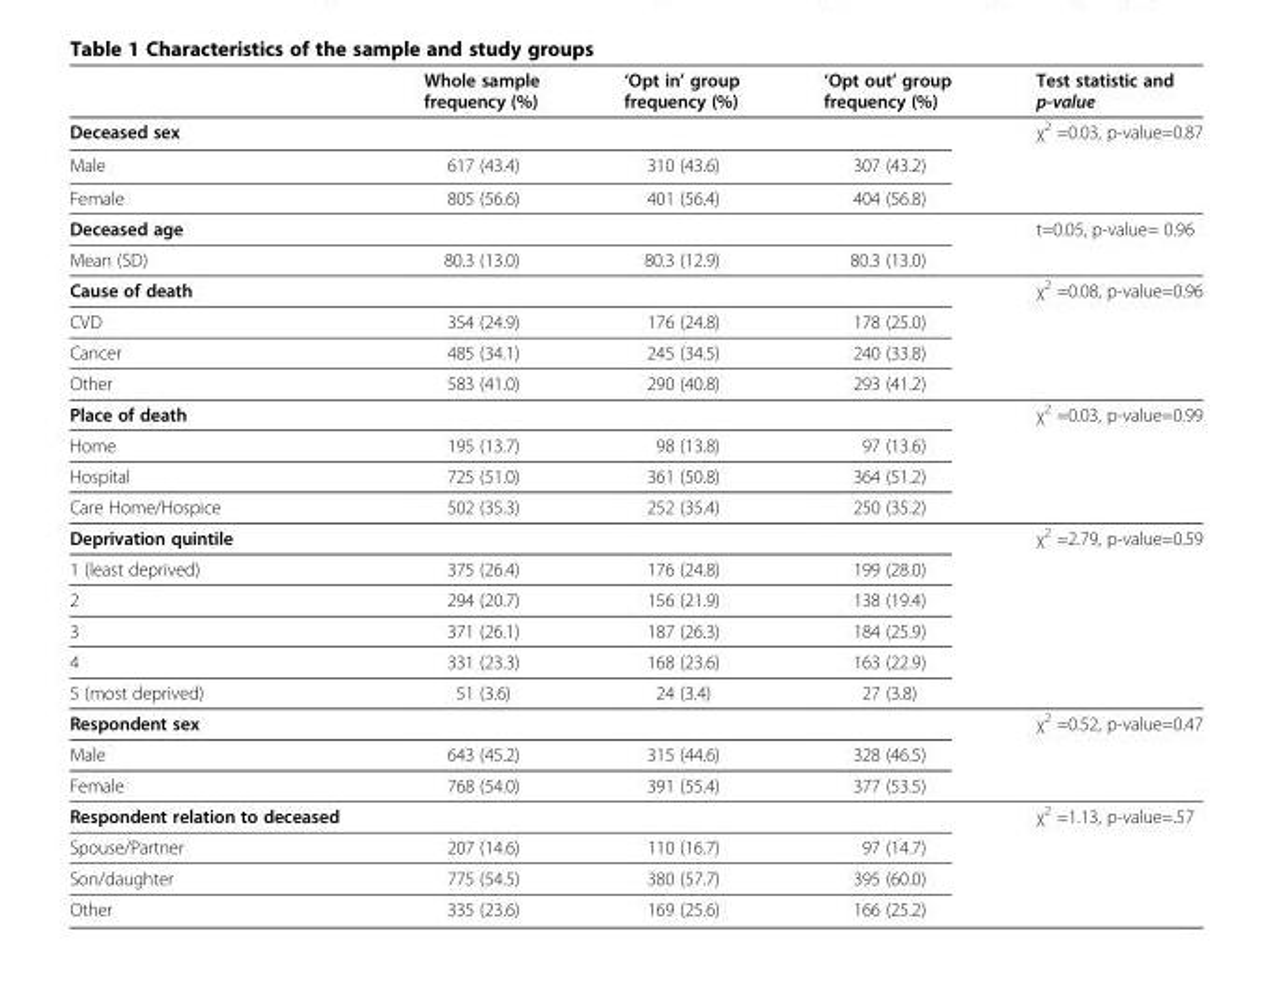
<table><thead><tr><td></td><td>Whole sample frequency (%)</td><td>‘Opt in’ group frequency (%)</td><td>‘Opt out’ group frequency (%)</td><td>Test statistic and p-value</td></tr></thead><tbody><tr><td>Deceased sex</td><td></td><td></td><td></td><td>χ<sup>2</sup> =0.03, p-value=0.87</td></tr><tr><td>Male</td><td>617 (43.4)</td><td>310 (43.6)</td><td>307 (43.2)</td><td></td></tr><tr><td>Female</td><td>805 (56.6)</td><td>401 (56.4)</td><td>404 (56.8)</td><td></td></tr><tr><td>Deceased age</td><td></td><td></td><td></td><td>t=0.05, p-value= 0.96</td></tr><tr><td>Mean (SD)</td><td>80.3 (13.0)</td><td>80.3 (12.9)</td><td>80.3 (13.0)</td><td></td></tr><tr><td>Cause of death</td><td></td><td></td><td></td><td>χ<sup>2</sup> =0.08, p-value=0.96</td></tr><tr><td>CVD</td><td>354 (24.9)</td><td>176 (24.8)</td><td>178 (25.0)</td><td></td></tr><tr><td>Cancer</td><td>485 (34.1)</td><td>245 (34.5)</td><td>240 (33.8)</td><td></td></tr><tr><td>Other</td><td>583 (41.0)</td><td>290 (40.8)</td><td>293 (41.2)</td><td></td></tr><tr><td>Place of death</td><td></td><td></td><td></td><td>χ<sup>2</sup> =0.03, p-value=0.99</td></tr><tr><td>Home</td><td>195 (13.7)</td><td>98 (13.8)</td><td>97 (13.6)</td><td></td></tr><tr><td>Hospital</td><td>725 (51.0)</td><td>361 (50.8)</td><td>364 (51.2)</td><td></td></tr><tr><td>Care Home/Hospice</td><td>502 (35.3)</td><td>252 (35.4)</td><td>250 (35.2)</td><td></td></tr><tr><td>Deprivation quintile</td><td></td><td></td><td></td><td>χ<sup>2</sup> =2.79, p-value=0.59</td></tr><tr><td>1 (least deprived)</td><td>375 (26.4)</td><td>176 (24.8)</td><td>199 (28.0)</td><td></td></tr><tr><td>2</td><td>294 (20.7)</td><td>156 (21.9)</td><td>138 (19.4)</td><td></td></tr><tr><td>3</td><td>371 (26.1)</td><td>187 (26.3)</td><td>184 (25.9)</td><td></td></tr><tr><td>4</td><td>331 (23.3)</td><td>168 (23.6)</td><td>163 (22.9)</td><td></td></tr><tr><td>5 (most deprived)</td><td>51 (3.6)</td><td>24 (3.4)</td><td>27 (3.8)</td><td></td></tr><tr><td>Respondent sex</td><td></td><td></td><td></td><td>χ<sup>2</sup> =0.52, p-value=0.47</td></tr><tr><td>Male</td><td>643 (45.2)</td><td>315 (44.6)</td><td>328 (46.5)</td><td></td></tr><tr><td>Female</td><td>768 (54.0)</td><td>391 (55.4)</td><td>377 (53.5)</td><td></td></tr><tr><td>Respondent relation to deceased</td><td></td><td></td><td></td><td>χ<sup>2</sup> =1.13, p-value=.57</td></tr><tr><td>Spouse/Partner</td><td>207 (14.6)</td><td>110 (16.7)</td><td>97 (14.7)</td><td></td></tr><tr><td>Son/daughter</td><td>775 (54.5)</td><td>380 (57.7)</td><td>395 (60.0)</td><td></td></tr><tr><td>Other</td><td>335 (23.6)</td><td>169 (25.6)</td><td>166 (25.2)</td><td></td></tr></tbody></table>